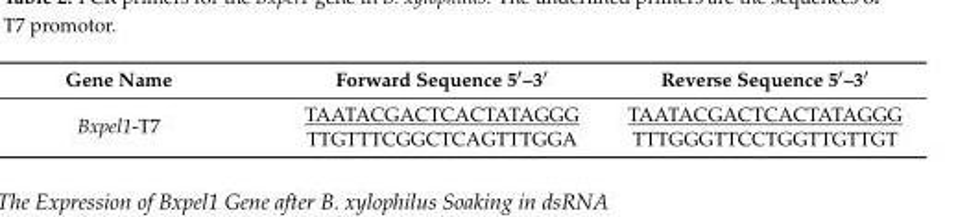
<table><thead><tr><td>Gene Name</td><td>Forward Sequence 5′–3′</td><td>Reverse Sequence 5′–3′</td></tr></thead><tbody><tr><td rowspan="2">Bxpel1-T7</td><td>TAATACGACTCACTATAGGG</td><td>TAATACGACTCACTATAGGG</td></tr><tr><td>TTGTTTCGGCTCAGTTTGGA</td><td>TTTGGGTTCCTGGTTGTTGT</td></tr></tbody></table>